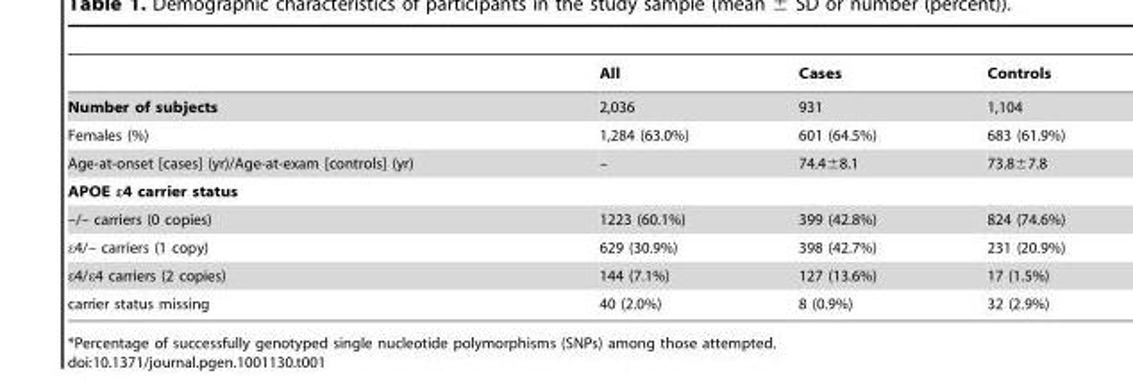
<table><thead><tr><td></td><td>All</td><td>Cases</td><td>Controls</td></tr></thead><tbody><tr><td>Number of subjects</td><td>2,036</td><td>931</td><td>1,104</td></tr><tr><td>Females (%)</td><td>1,284 (63.0%)</td><td>601 (64.5%)</td><td>683 (61.9%)</td></tr><tr><td>Age-at-onset [cases] (yr)/Age-at-exam [controls] (yr)</td><td>–</td><td>74.4±8.1</td><td>73.8±7.8</td></tr><tr><td colspan="4">APOE ε4 carrier status</td></tr><tr><td>–/– carriers (0 copies)</td><td>1223 (60.1%)</td><td>399 (42.8%)</td><td>824 (74.6%)</td></tr><tr><td>ε4/– carriers (1 copy)</td><td>629 (30.9%)</td><td>398 (42.7%)</td><td>231 (20.9%)</td></tr><tr><td>ε4/ε4 carriers (2 copies)</td><td>144 (7.1%)</td><td>127 (13.6%)</td><td>17 (1.5%)</td></tr><tr><td>carrier status missing</td><td>40 (2.0%)</td><td>8 (0.9%)</td><td>32 (2.9%)</td></tr></tbody></table>